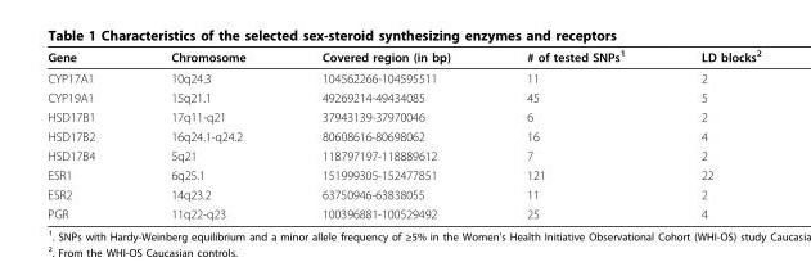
<table><thead><tr><td>Gene</td><td>Chromosome</td><td>Covered region (in bp)</td><td># of tested SNPs<sup>1</sup></td><td>LD blocks<sup>2</sup></td></tr></thead><tbody><tr><td>CYP17A1</td><td>10q24.3</td><td>104562266-104595511</td><td>11</td><td>2</td></tr><tr><td>CYP19A1</td><td>15q21.1</td><td>49269214-49434085</td><td>45</td><td>5</td></tr><tr><td>HSD17B1</td><td>17q11-q21</td><td>37943139-37970046</td><td>6</td><td>2</td></tr><tr><td>HSD17B2</td><td>16q24.1-q24.2</td><td>80608616-80698062</td><td>16</td><td>4</td></tr><tr><td>HSD17B4</td><td>5q21</td><td>118797197-118889612</td><td>7</td><td>2</td></tr><tr><td>ESR1</td><td>6q25.1</td><td>151999305-152477851</td><td>121</td><td>22</td></tr><tr><td>ESR2</td><td>14q23.2</td><td>63750946-63838055</td><td>11</td><td>2</td></tr><tr><td>PGR</td><td>11q22-q23</td><td>100396881-100529492</td><td>25</td><td>4</td></tr></tbody></table>